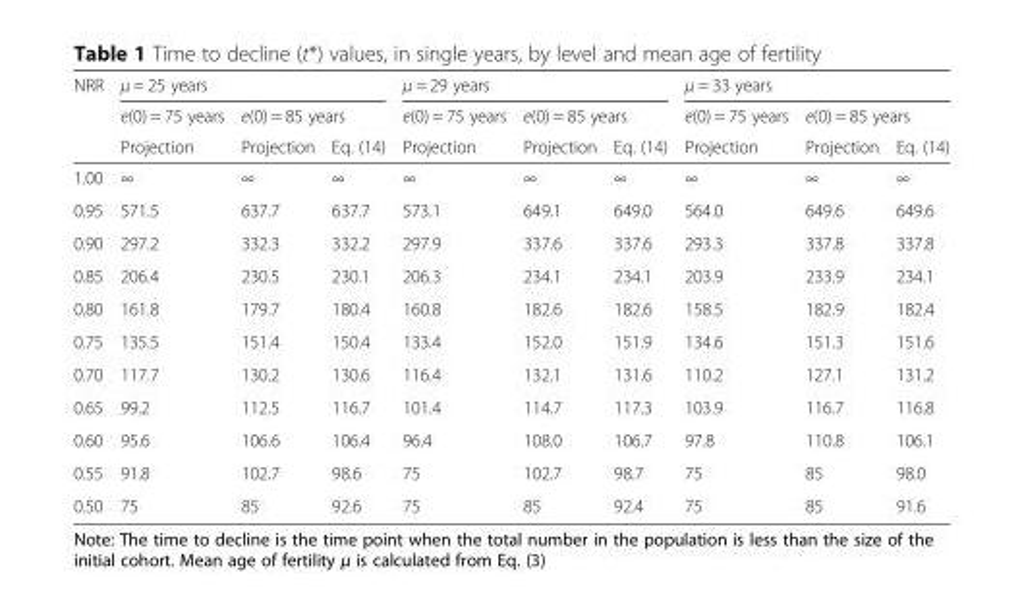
<table><thead><tr><td rowspan="3">NRR</td><td colspan="3">μ = 25 years</td><td colspan="3">μ = 29 years</td><td colspan="3">μ = 33 years</td></tr><tr><td rowspan="2">e(0) = 75 years Projection</td><td colspan="2">e(0) = 85 years</td><td rowspan="2">e(0) = 75 years Projection</td><td colspan="2">e(0) = 85 years</td><td rowspan="2">e(0) = 75 years Projection</td><td colspan="2">e(0) = 85 years</td></tr><tr><td>Projection</td><td>Eq. (14)</td><td>Projection</td><td>Eq. (14)</td><td>Projection</td><td>Eq. (14)</td></tr></thead><tbody><tr><td>1.00</td><td>∞</td><td>∞</td><td>∞</td><td>∞</td><td>∞</td><td>∞</td><td>∞</td><td>∞</td><td>∞</td></tr><tr><td>0.95</td><td>571.5</td><td>637.7</td><td>637.7</td><td>573.1</td><td>649.1</td><td>649.0</td><td>564.0</td><td>649.6</td><td>649.6</td></tr><tr><td>0.90</td><td>297.2</td><td>332.3</td><td>332.2</td><td>297.9</td><td>337.6</td><td>337.6</td><td>293.3</td><td>337.8</td><td>337.8</td></tr><tr><td>0.85</td><td>206.4</td><td>230.5</td><td>230.1</td><td>206.3</td><td>234.1</td><td>234.1</td><td>203.9</td><td>233.9</td><td>234.1</td></tr><tr><td>0.80</td><td>161.8</td><td>179.7</td><td>180.4</td><td>160.8</td><td>182.6</td><td>182.6</td><td>158.5</td><td>182.9</td><td>182.4</td></tr><tr><td>0.75</td><td>135.5</td><td>151.4</td><td>150.4</td><td>133.4</td><td>152.0</td><td>151.9</td><td>134.6</td><td>151.3</td><td>151.6</td></tr><tr><td>0.70</td><td>117.7</td><td>130.2</td><td>130.6</td><td>116.4</td><td>132.1</td><td>131.6</td><td>110.2</td><td>127.1</td><td>131.2</td></tr><tr><td>0.65</td><td>99.2</td><td>112.5</td><td>116.7</td><td>101.4</td><td>114.7</td><td>117.3</td><td>103.9</td><td>116.7</td><td>116.8</td></tr><tr><td>0.60</td><td>95.6</td><td>106.6</td><td>106.4</td><td>96.4</td><td>108.0</td><td>106.7</td><td>97.8</td><td>110.8</td><td>106.1</td></tr><tr><td>0.55</td><td>91.8</td><td>102.7</td><td>98.6</td><td>75</td><td>102.7</td><td>98.7</td><td>75</td><td>85</td><td>98.0</td></tr><tr><td>0.50</td><td>75</td><td>85</td><td>92.6</td><td>75</td><td>85</td><td>92.4</td><td>75</td><td>85</td><td>91.6</td></tr></tbody></table>